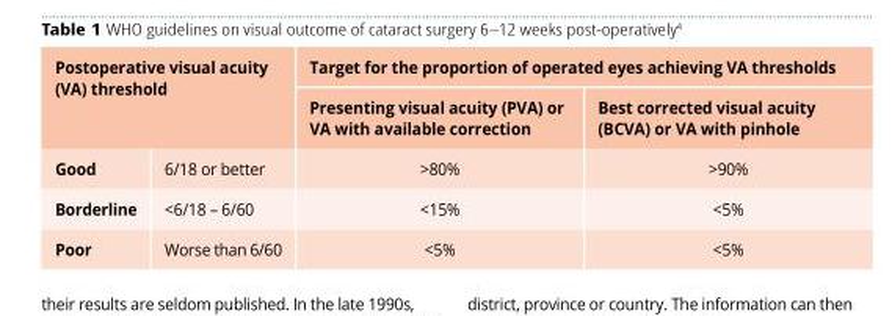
<table><thead><tr><td rowspan="2" colspan="2">Postoperative visual acuity (VA) threshold</td><td colspan="2">Target for the proportion of operated eyes achieving VA thresholds</td></tr><tr><td rowspan="2">Presenting visual acuity (PVA) or VA with available correction &gt;80%</td><td rowspan="2">Best corrected visual acuity (BCVA) or VA with pinhole &gt;90%</td></tr><tr><td>Good</td><td>6/18 or better</td></tr></thead><tbody><tr><td>Borderline</td><td>&lt;6/18 – 6/60</td><td>&lt;15%</td><td>&lt;5%</td></tr><tr><td>Poor</td><td>Worse than 6/60</td><td>&lt;5%</td><td>&lt;5%</td></tr></tbody></table>